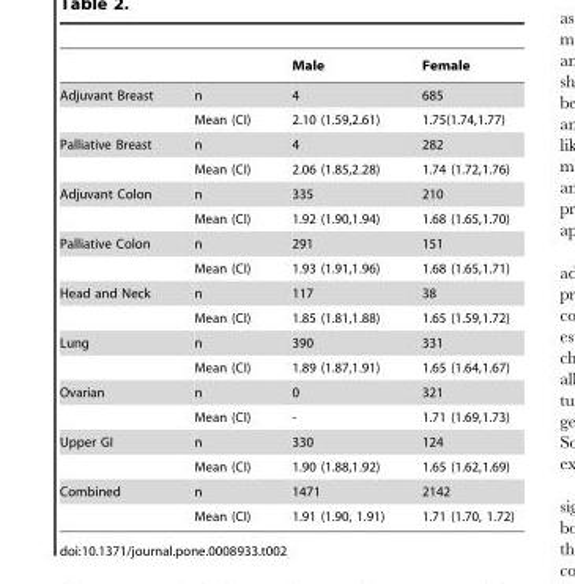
<table><thead><tr><td></td><td></td><td>Male</td><td>Female</td></tr></thead><tbody><tr><td rowspan="2">Adjuvant Breast</td><td>n</td><td>4</td><td>685</td></tr><tr><td>Mean (CI)</td><td>2.10 (1.59,2.61)</td><td>1.75(1.74,1.77)</td></tr><tr><td rowspan="2">Palliative Breast</td><td>n</td><td>4</td><td>282</td></tr><tr><td>Mean (CI)</td><td>2.06 (1.85,2.28)</td><td>1.74 (1.72,1.76)</td></tr><tr><td rowspan="2">Adjuvant Colon</td><td>n</td><td>335</td><td>210</td></tr><tr><td>Mean (CI)</td><td>1.92 (1.90,1.94)</td><td>1.68 (1.65,1.70)</td></tr><tr><td rowspan="2">Palliative Colon</td><td>n</td><td>291</td><td>151</td></tr><tr><td>Mean (CI)</td><td>1.93 (1.91,1.96)</td><td>1.68 (1.65,1.71)</td></tr><tr><td rowspan="2">Head and Neck</td><td>n</td><td>117</td><td>38</td></tr><tr><td>Mean (CI)</td><td>1.85 (1.81,1.88)</td><td>1.65 (1.59,1.72)</td></tr><tr><td rowspan="2">Lung</td><td>n</td><td>390</td><td>331</td></tr><tr><td>Mean (CI)</td><td>1.89 (1.87,1.91)</td><td>1.65 (1.64,1.67)</td></tr><tr><td rowspan="2">Ovarian</td><td>n</td><td>0</td><td>321</td></tr><tr><td>Mean (CI)</td><td>-</td><td>1.71 (1.69,1.73)</td></tr><tr><td rowspan="2">Upper GI</td><td>n</td><td>330</td><td>124</td></tr><tr><td>Mean (CI)</td><td>1.90 (1.88,1.92)</td><td>1.65 (1.62,1.69)</td></tr><tr><td rowspan="2">Combined</td><td>n</td><td>1471</td><td>2142</td></tr><tr><td>Mean (CI)</td><td>1.91 (1.90, 1.91)</td><td>1.71 (1.70, 1.72)</td></tr></tbody></table>